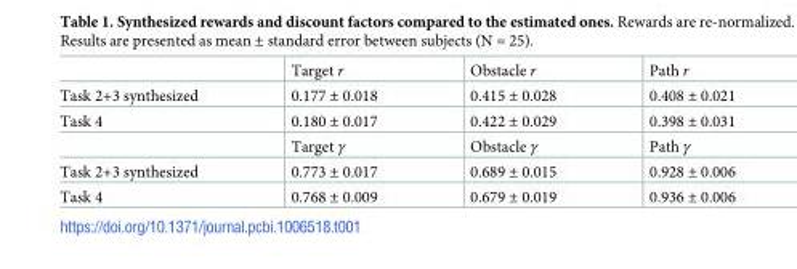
<table><thead><tr><td></td><td>Target r</td><td>Obstacle r</td><td>Path r</td></tr></thead><tbody><tr><td>Task 2+3 synthesized</td><td>0.177 ± 0.018</td><td>0.415 ± 0.028</td><td>0.408 ± 0.021</td></tr><tr><td rowspan="2">Task 4</td><td>0.180 ± 0.017</td><td>0.422 ± 0.029</td><td>0.398 ± 0.031</td></tr><tr><td>Target γ</td><td>Obstacle γ</td><td>Path γ</td></tr><tr><td>Task 2+3 synthesized</td><td>0.773 ± 0.017</td><td>0.689 ± 0.015</td><td>0.928 ± 0.006</td></tr><tr><td>Task 4</td><td>0.768 ± 0.009</td><td>0.679 ± 0.019</td><td>0.936 ± 0.006</td></tr></tbody></table>